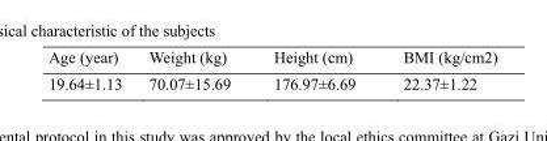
<table><thead><tr><td>Age (year)</td><td>Weight (kg)</td><td>Height (cm)</td><td>BMI (kg/cm2)</td></tr></thead><tbody><tr><td>19.64±1.13</td><td>70.07±15.69</td><td>176.97±6.69</td><td>22.37±1.22</td></tr></tbody></table>